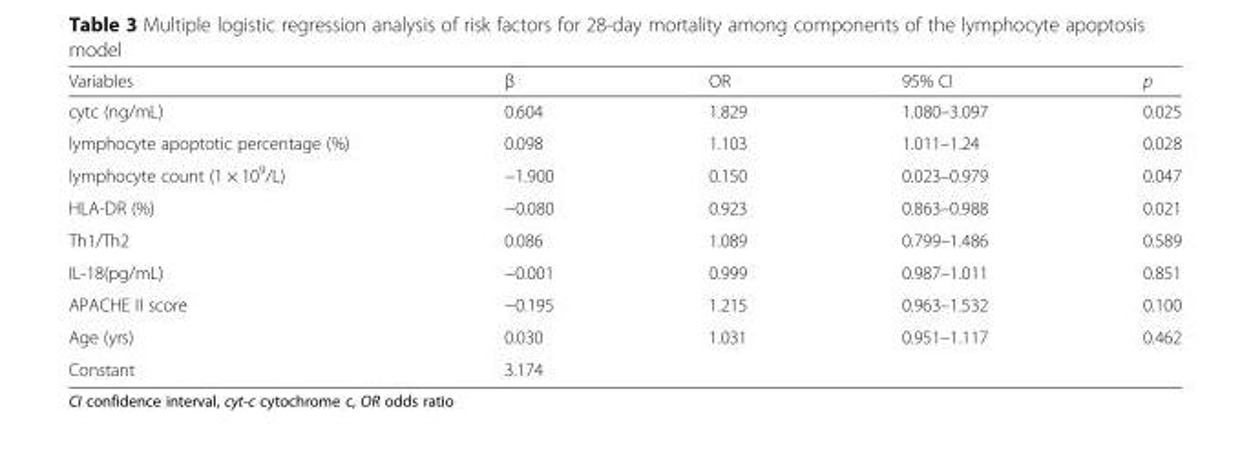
<table><thead><tr><td>Variables</td><td>β</td><td>OR</td><td>95% CI</td><td>p</td></tr></thead><tbody><tr><td>cytc (ng/mL)</td><td>0.604</td><td>1.829</td><td>1.080–3.097</td><td>0.025</td></tr><tr><td>lymphocyte apoptotic percentage (%)</td><td>0.098</td><td>1.103</td><td>1.011–1.24</td><td>0.028</td></tr><tr><td>lymphocyte count (1 × 10<sup>9</sup>/L)</td><td>−1.900</td><td>0.150</td><td>0.023–0.979</td><td>0.047</td></tr><tr><td>HLA-DR (%)</td><td>−0.080</td><td>0.923</td><td>0.863–0.988</td><td>0.021</td></tr><tr><td>Th1/Th2</td><td>0.086</td><td>1.089</td><td>0.799–1.486</td><td>0.589</td></tr><tr><td>IL-18(pg/mL)</td><td>−0.001</td><td>0.999</td><td>0.987–1.011</td><td>0.851</td></tr><tr><td>APACHE II score</td><td>−0.195</td><td>1.215</td><td>0.963–1.532</td><td>0.100</td></tr><tr><td>Age (yrs)</td><td>0.030</td><td>1.031</td><td>0.951–1.117</td><td>0.462</td></tr><tr><td>Constant</td><td>3.174</td><td></td><td></td><td></td></tr></tbody></table>